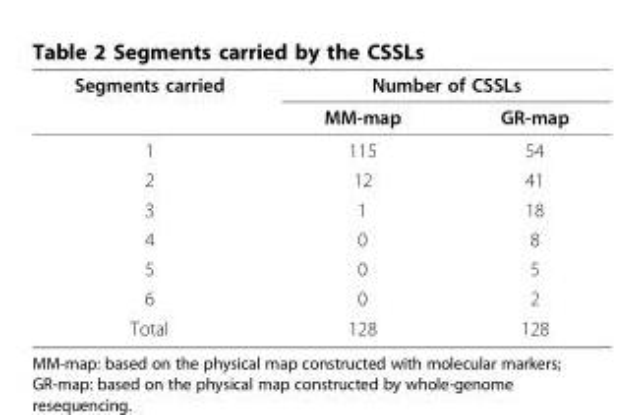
<table><thead><tr><td rowspan="2">Segments carried</td><td colspan="2">Number of CSSLs</td></tr><tr><td>MM-map</td><td>GR-map</td></tr></thead><tbody><tr><td>1</td><td>115</td><td>54</td></tr><tr><td>2</td><td>12</td><td>41</td></tr><tr><td>3</td><td>1</td><td>18</td></tr><tr><td>4</td><td>0</td><td>8</td></tr><tr><td>5</td><td>0</td><td>5</td></tr><tr><td>6</td><td>0</td><td>2</td></tr><tr><td>Total</td><td>128</td><td>128</td></tr></tbody></table>